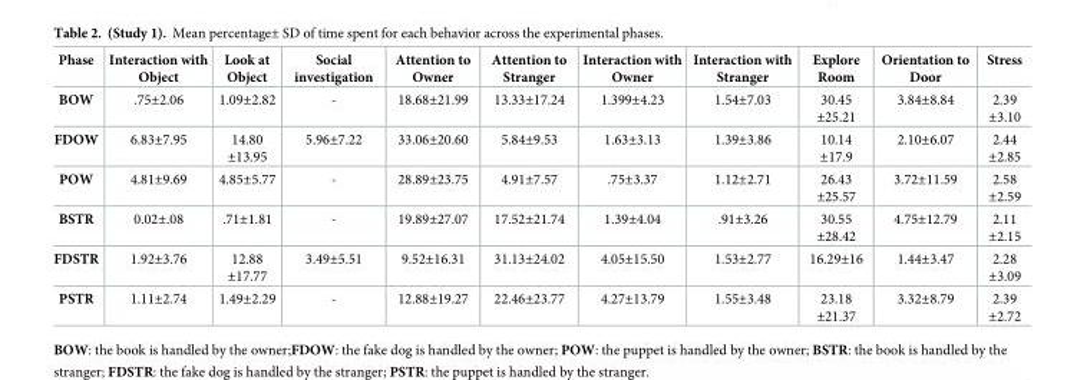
<table><thead><tr><td>Phase</td><td>Interaction with Object</td><td>Look at Object</td><td>Social investigation</td><td>Attention to Owner</td><td>Attention to Stranger</td><td>Interaction with Owner</td><td>Interaction with Stranger</td><td>Explore Room</td><td>Orientation to Door</td><td>Stress</td></tr></thead><tbody><tr><td>BOW</td><td>.75±2.06</td><td>1.09±2.82</td><td>-</td><td>18.68±21.99</td><td>13.33±17.24</td><td>1.399±4.23</td><td>1.54±7.03</td><td>30.45 ±25.21</td><td>3.84±8.84</td><td>2.39 ±3.10</td></tr><tr><td>FDOW</td><td>6.83±7.95</td><td>14.80 ±13.95</td><td>5.96±7.22</td><td>33.06±20.60</td><td>5.84±9.53</td><td>1.63±3.13</td><td>1.39±3.86</td><td>10.14 ±17.9</td><td>2.10±6.07</td><td>2.44 ±2.85</td></tr><tr><td>POW</td><td>4.81±9.69</td><td>4.85±5.77</td><td>-</td><td>28.89±23.75</td><td>4.91±7.57</td><td>.75±3.37</td><td>1.12±2.71</td><td>26.43 ±25.57</td><td>3.72±11.59</td><td>2.58 ±2.59</td></tr><tr><td>BSTR</td><td>0.02±.08</td><td>.71±1.81</td><td>-</td><td>19.89±27.07</td><td>17.52±21.74</td><td>1.39±4.04</td><td>.91±3.26</td><td>30.55 ±28.42</td><td>4.75±12.79</td><td>2.11 ±2.15</td></tr><tr><td>FDSTR</td><td>1.92±3.76</td><td>12.88 ±17.77</td><td>3.49±5.51</td><td>9.52±16.31</td><td>31.13±24.02</td><td>4.05±15.50</td><td>1.53±2.77</td><td>16.29±16</td><td>1.44±3.47</td><td>2.28 ±3.09</td></tr><tr><td>PSTR</td><td>1.11±2.74</td><td>1.49±2.29</td><td>-</td><td>12.88±19.27</td><td>22.46±23.77</td><td>4.27±13.79</td><td>1.55±3.48</td><td>23.18 ±21.37</td><td>3.32±8.79</td><td>2.39 ±2.72</td></tr></tbody></table>